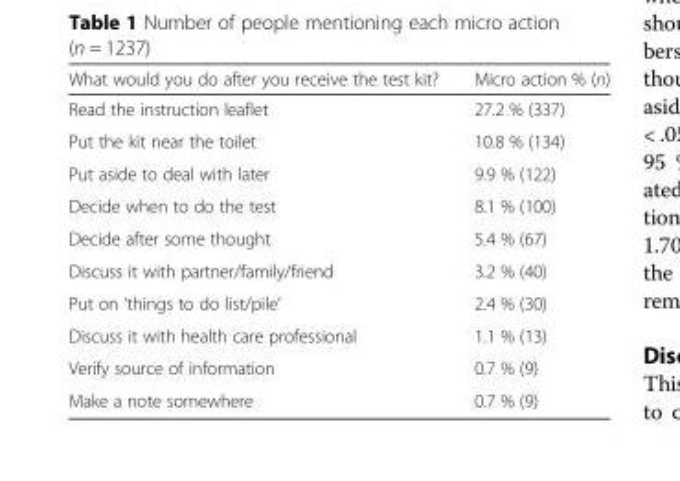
<table><thead><tr><td>What would you do after you receive the test kit?</td><td>Micro action % (n)</td></tr></thead><tbody><tr><td>Read the instruction leaflet</td><td>27.2 % (337)</td></tr><tr><td>Put the kit near the toilet</td><td>10.8 % (134)</td></tr><tr><td>Put aside to deal with later</td><td>9.9 % (122)</td></tr><tr><td>Decide when to do the test</td><td>8.1 % (100)</td></tr><tr><td>Decide after some thought</td><td>5.4 % (67)</td></tr><tr><td>Discuss it with partner/family/friend</td><td>3.2 % (40)</td></tr><tr><td>Put on ‘things to do list/pile’</td><td>2.4 % (30)</td></tr><tr><td>Discuss it with health care professional</td><td>1.1 % (13)</td></tr><tr><td>Verify source of information</td><td>0.7 % (9)</td></tr><tr><td>Make a note somewhere</td><td>0.7 % (9)</td></tr></tbody></table>